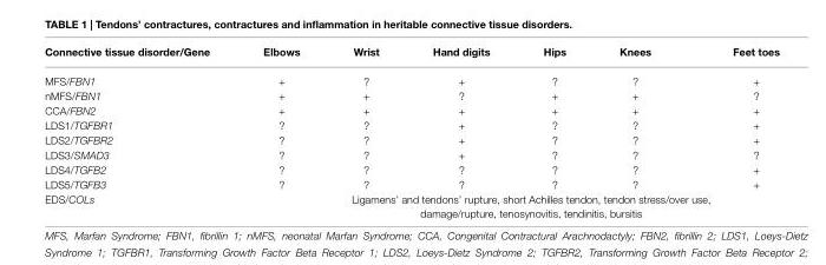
<table><thead><tr><td>Connective tissue disorder/Gene</td><td>Elbows</td><td>Wrist</td><td>Hand digits</td><td>Hips</td><td>Knees</td><td>Feet toes</td></tr></thead><tbody><tr><td>MFS/FBN1</td><td>+</td><td>?</td><td>+</td><td>?</td><td>?</td><td>+</td></tr><tr><td>nMFS/FBN1</td><td>+</td><td>+</td><td>?</td><td>+</td><td>+</td><td>?</td></tr><tr><td>CCA/FBN2</td><td>+</td><td>+</td><td>+</td><td>+</td><td>+</td><td>+</td></tr><tr><td>LDS1/TGFBR1</td><td>?</td><td>?</td><td>+</td><td>?</td><td>?</td><td>+</td></tr><tr><td>LDS2/TGFBR2</td><td>?</td><td>?</td><td>+</td><td>?</td><td>?</td><td>+</td></tr><tr><td>LDS3/SMAD3</td><td>?</td><td>?</td><td>+</td><td>?</td><td>?</td><td>?</td></tr><tr><td>LDS4/TGFB2</td><td>?</td><td>?</td><td>?</td><td>?</td><td>?</td><td>+</td></tr><tr><td>LDS5/TGFB3</td><td>?</td><td>?</td><td>?</td><td>?</td><td>?</td><td>+</td></tr><tr><td>EDS/COLs</td><td colspan="6">Ligamens’ and tendons’ rupture, short Achilles tendon, tendon stress/over use, damage/rupture, tenosynovitis, tendinitis, bursitis</td></tr></tbody></table>